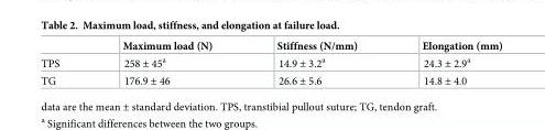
<table><thead><tr><td></td><td>Maximum load (N)</td><td>Stiffness (N/mm)</td><td>Elongation (mm)</td></tr></thead><tbody><tr><td>TPS</td><td>258 ± 45<sup>a</sup></td><td>14.9 ± 3.2<sup>a</sup></td><td>24.3 ± 2.9<sup>a</sup></td></tr><tr><td>TG</td><td>176.9 ± 46</td><td>26.6 ± 5.6</td><td>14.8 ± 4.0</td></tr></tbody></table>